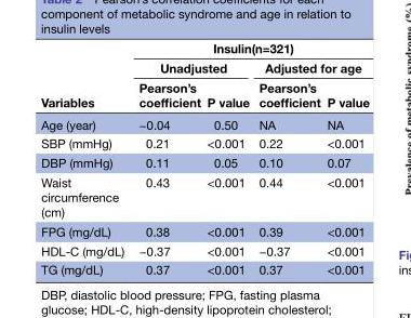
<table><thead><tr><td rowspan="3">Variables</td><td colspan="4">Insulin(n=321)</td></tr><tr><td colspan="2">Unadjusted</td><td colspan="2">Adjusted for age</td></tr><tr><td>Pearson’s coefficient</td><td>P value</td><td>Pearson’s coefficient</td><td>P value</td></tr></thead><tbody><tr><td>Age (year)</td><td>−0.04</td><td>0.50</td><td>NA</td><td>NA</td></tr><tr><td>SBP (mmHg)</td><td>0.21</td><td>&lt;0.001</td><td>0.22</td><td>&lt;0.001</td></tr><tr><td>DBP (mmHg)</td><td>0.11</td><td>0.05</td><td>0.10</td><td>0.07</td></tr><tr><td>Waist circumference (cm)</td><td>0.43</td><td>&lt;0.001</td><td>0.44</td><td>&lt;0.001</td></tr><tr><td>FPG (mg/dL)</td><td>0.38</td><td>&lt;0.001</td><td>0.39</td><td>&lt;0.001</td></tr><tr><td>HDL-C (mg/dL)</td><td>−0.37</td><td>&lt;0.001</td><td>−0.37</td><td>&lt;0.001</td></tr><tr><td>TG (mg/dL)</td><td>0.37</td><td>&lt;0.001</td><td>0.37</td><td>&lt;0.001</td></tr></tbody></table>